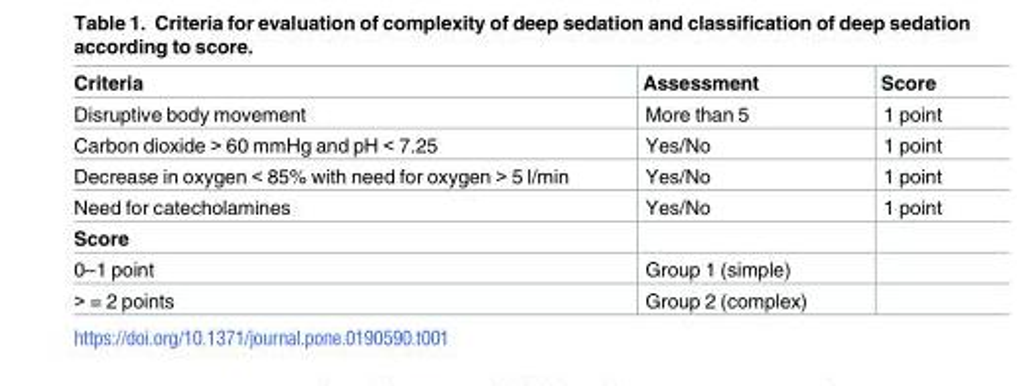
<table><thead><tr><td>Criteria</td><td>Assessment</td><td>Score</td></tr></thead><tbody><tr><td>Disruptive body movement</td><td>More than 5</td><td>1 point</td></tr><tr><td>Carbon dioxide &gt; 60 mmHg and pH &lt; 7.25</td><td>Yes/No</td><td>1 point</td></tr><tr><td>Decrease in oxygen &lt; 85% with need for oxygen &gt; 5 l/min</td><td>Yes/No</td><td>1 point</td></tr><tr><td>Need for catecholamines</td><td>Yes/No</td><td>1 point</td></tr><tr><td colspan="3">Score</td></tr><tr><td>0–1 point</td><td>Group 1 (simple)</td><td></td></tr><tr><td>&gt; = 2 points</td><td>Group 2 (complex)</td><td></td></tr></tbody></table>